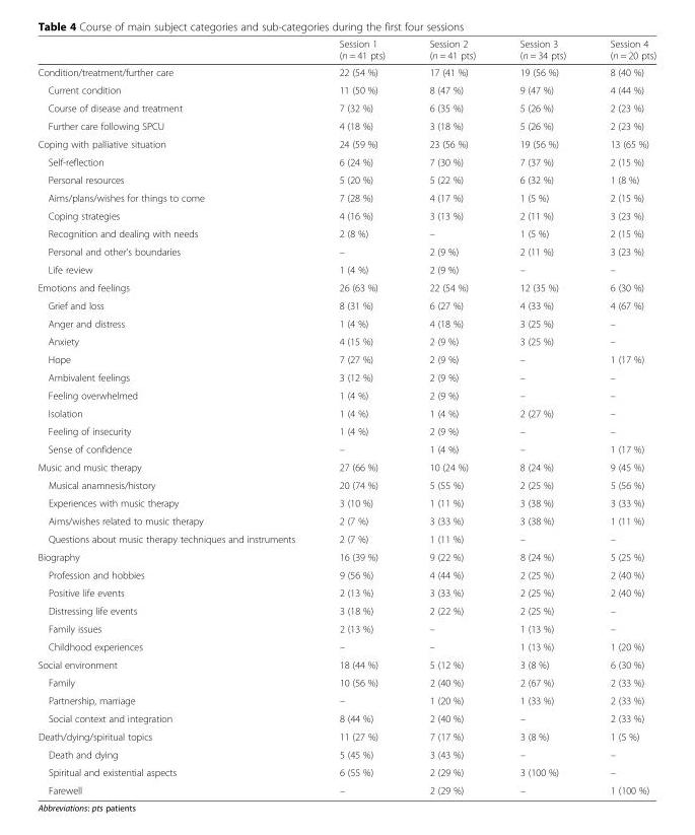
<table><thead><tr><td></td><td>Session 1 (n = 41 pts)</td><td>Session 2 (n = 41 pts)</td><td>Session 3 (n = 34 pts)</td><td>Session 4 (n = 20 pts)</td></tr></thead><tbody><tr><td>Condition/treatment/further care</td><td>22 (54 %)</td><td>17 (41 %)</td><td>19 (56 %)</td><td>8 (40 %)</td></tr><tr><td>Current condition</td><td>11 (50 %)</td><td>8 (47 %)</td><td>9 (47 %)</td><td>4 (44 %)</td></tr><tr><td>Course of disease and treatment</td><td>7 (32 %)</td><td>6 (35 %)</td><td>5 (26 %)</td><td>2 (23 %)</td></tr><tr><td>Further care following SPCU</td><td>4 (18 %)</td><td>3 (18 %)</td><td>5 (26 %)</td><td>2 (23 %)</td></tr><tr><td>Coping with palliative situation</td><td>24 (59 %)</td><td>23 (56 %)</td><td>19 (56 %)</td><td>13 (65 %)</td></tr><tr><td>Self-reflection</td><td>6 (24 %)</td><td>7 (30 %)</td><td>7 (37 %)</td><td>2 (15 %)</td></tr><tr><td>Personal resources</td><td>5 (20 %)</td><td>5 (22 %)</td><td>6 (32 %)</td><td>1 (8 %)</td></tr><tr><td>Aims/plans/wishes for things to come</td><td>7 (28 %)</td><td>4 (17 %)</td><td>1 (5 %)</td><td>2 (15 %)</td></tr><tr><td>Coping strategies</td><td>4 (16 %)</td><td>3 (13 %)</td><td>2 (11 %)</td><td>3 (23 %)</td></tr><tr><td>Recognition and dealing with needs</td><td>2 (8 %)</td><td>–</td><td>1 (5 %)</td><td>2 (15 %)</td></tr><tr><td>Personal and other’s boundaries</td><td>–</td><td>2 (9 %)</td><td>2 (11 %)</td><td>3 (23 %)</td></tr><tr><td>Life review</td><td>1 (4 %)</td><td>2 (9 %)</td><td>–</td><td>–</td></tr><tr><td>Emotions and feelings</td><td>26 (63 %)</td><td>22 (54 %)</td><td>12 (35 %)</td><td>6 (30 %)</td></tr><tr><td>Grief and loss</td><td>8 (31 %)</td><td>6 (27 %)</td><td>4 (33 %)</td><td>4 (67 %)</td></tr><tr><td>Anger and distress</td><td>1 (4 %)</td><td>4 (18 %)</td><td>3 (25 %)</td><td>–</td></tr><tr><td>Anxiety</td><td>4 (15 %)</td><td>2 (9 %)</td><td>3 (25 %)</td><td>–</td></tr><tr><td>Hope</td><td>7 (27 %)</td><td>2 (9 %)</td><td>–</td><td>1 (17 %)</td></tr><tr><td>Ambivalent feelings</td><td>3 (12 %)</td><td>2 (9 %)</td><td>–</td><td>–</td></tr><tr><td>Feeling overwhelmed</td><td>1 (4 %)</td><td>2 (9 %)</td><td>–</td><td>–</td></tr><tr><td>Isolation</td><td>1 (4 %)</td><td>1 (4 %)</td><td>2 (27 %)</td><td>–</td></tr><tr><td>Feeling of insecurity</td><td>1 (4 %)</td><td>2 (9 %)</td><td>–</td><td>–</td></tr><tr><td>Sense of confidence</td><td>–</td><td>1 (4 %)</td><td>–</td><td>1 (17 %)</td></tr><tr><td>Music and music therapy</td><td>27 (66 %)</td><td>10 (24 %)</td><td>8 (24 %)</td><td>9 (45 %)</td></tr><tr><td>Musical anamnesis/history</td><td>20 (74 %)</td><td>5 (55 %)</td><td>2 (25 %)</td><td>5 (56 %)</td></tr><tr><td>Experiences with music therapy</td><td>3 (10 %)</td><td>1 (11 %)</td><td>3 (38 %)</td><td>3 (33 %)</td></tr><tr><td>Aims/wishes related to music therapy</td><td>2 (7 %)</td><td>3 (33 %)</td><td>3 (38 %)</td><td>1 (11 %)</td></tr><tr><td>Questions about music therapy techniques and instruments</td><td>2 (7 %)</td><td>1 (11 %)</td><td>–</td><td>–</td></tr><tr><td>Biography</td><td>16 (39 %)</td><td>9 (22 %)</td><td>8 (24 %)</td><td>5 (25 %)</td></tr><tr><td>Profession and hobbies</td><td>9 (56 %)</td><td>4 (44 %)</td><td>2 (25 %)</td><td>2 (40 %)</td></tr><tr><td>Positive life events</td><td>2 (13 %)</td><td>3 (33 %)</td><td>2 (25 %)</td><td>2 (40 %)</td></tr><tr><td>Distressing life events</td><td>3 (18 %)</td><td>2 (22 %)</td><td>2 (25 %)</td><td>–</td></tr><tr><td>Family issues</td><td>2 (13 %)</td><td>–</td><td>1 (13 %)</td><td>–</td></tr><tr><td>Childhood experiences</td><td>–</td><td>–</td><td>1 (13 %)</td><td>1 (20 %)</td></tr><tr><td>Social environment</td><td>18 (44 %)</td><td>5 (12 %)</td><td>3 (8 %)</td><td>6 (30 %)</td></tr><tr><td>Family</td><td>10 (56 %)</td><td>2 (40 %)</td><td>2 (67 %)</td><td>2 (33 %)</td></tr><tr><td>Partnership, marriage</td><td>–</td><td>1 (20 %)</td><td>1 (33 %)</td><td>2 (33 %)</td></tr><tr><td>Social context and integration</td><td>8 (44 %)</td><td>2 (40 %)</td><td>–</td><td>2 (33 %)</td></tr><tr><td>Death/dying/spiritual topics</td><td>11 (27 %)</td><td>7 (17 %)</td><td>3 (8 %)</td><td>1 (5 %)</td></tr><tr><td>Death and dying</td><td>5 (45 %)</td><td>3 (43 %)</td><td>–</td><td>–</td></tr><tr><td>Spiritual and existential aspects</td><td>6 (55 %)</td><td>2 (29 %)</td><td>3 (100 %)</td><td>–</td></tr><tr><td>Farewell</td><td>–</td><td>2 (29 %)</td><td>–</td><td>1 (100 %)</td></tr></tbody></table>